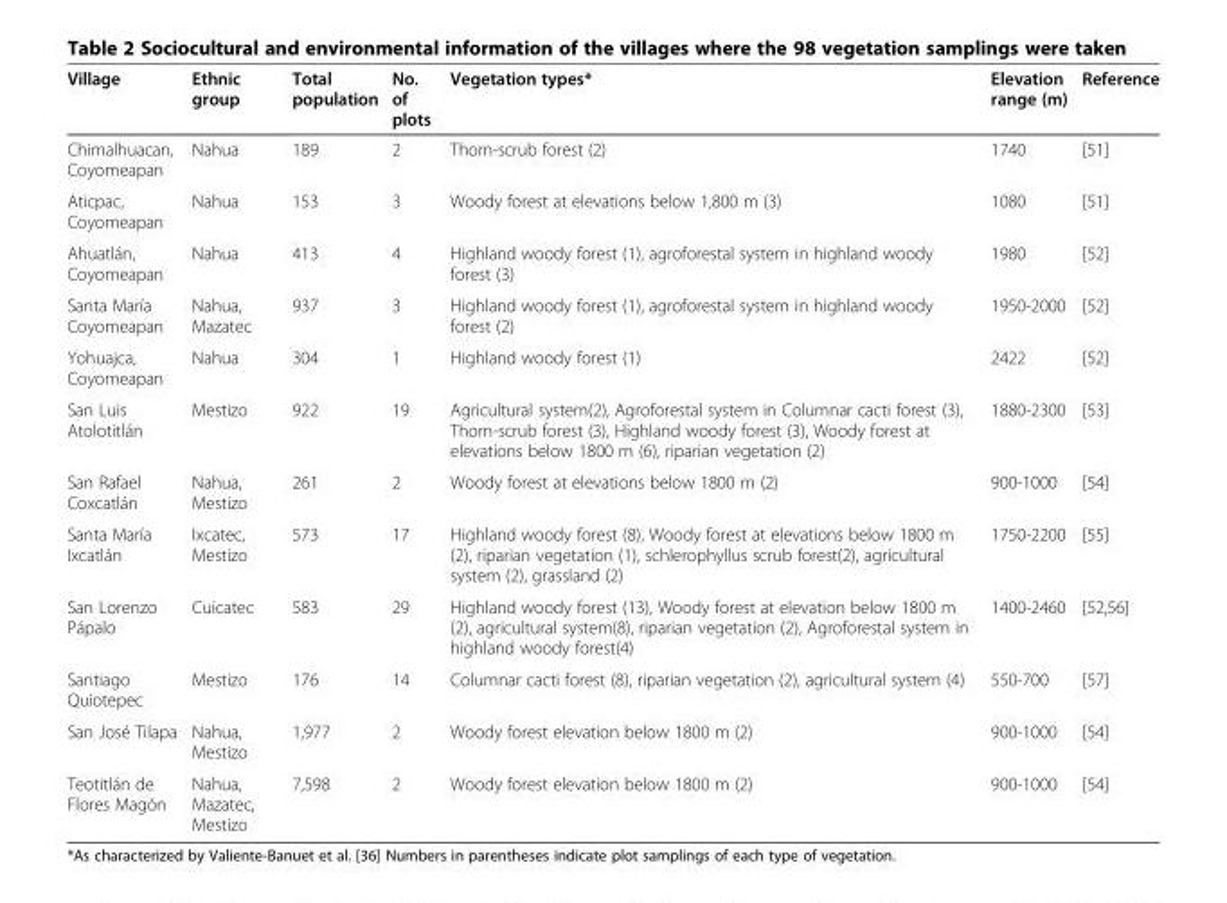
<table><thead><tr><td>Village</td><td>Ethnic group</td><td>Total population</td><td>No. of plots</td><td>Vegetation types*</td><td>Elevation range (m)</td><td>Reference</td></tr></thead><tbody><tr><td>Chimalhuacan, Coyomeapan</td><td>Nahua</td><td>189</td><td>2</td><td>Thorn-scrub forest (2)</td><td>1740</td><td>[51]</td></tr><tr><td>Aticpac, Coyomeapan</td><td>Nahua</td><td>153</td><td>3</td><td>Woody forest at elevations below 1,800 m (3)</td><td>1080</td><td>[51]</td></tr><tr><td>Ahuatlán, Coyomeapan</td><td>Nahua</td><td>413</td><td>4</td><td>Highland woody forest (1), agroforestal system in highland woody forest (3)</td><td>1980</td><td>[52]</td></tr><tr><td>Santa María Coyomeapan</td><td>Nahua, Mazatec</td><td>937</td><td>3</td><td>Highland woody forest (1), agroforestal system in highland woody forest (2)</td><td>1950-2000</td><td>[52]</td></tr><tr><td>Yohuajca, Coyomeapan</td><td>Nahua</td><td>304</td><td>1</td><td>Highland woody forest (1)</td><td>2422</td><td>[52]</td></tr><tr><td>San Luis Atolotitlán</td><td>Mestizo</td><td>922</td><td>19</td><td>Agricultural system(2), Agroforestal system in Columnar cacti forest (3), Thorn-scrub forest (3), Highland woody forest (3), Woody forest at elevations below 1800 m (6), riparian vegetation (2)</td><td>1880-2300</td><td>[53]</td></tr><tr><td>San Rafael Coxcatlán</td><td>Nahua, Mestizo</td><td>261</td><td>2</td><td>Woody forest at elevations below 1800 m (2)</td><td>900-1000</td><td>[54]</td></tr><tr><td>Santa María Ixcatlán</td><td>Ixcatec, Mestizo</td><td>573</td><td>17</td><td>Highland woody forest (8), Woody forest at elevations below 1800 m (2), riparian vegetation (1), schlerophyllus scrub forest(2), agricultural system (2), grassland (2)</td><td>1750-2200</td><td>[55]</td></tr><tr><td>San Lorenzo Pápalo</td><td>Cuicatec</td><td>583</td><td>29</td><td>Highland woody forest (13), Woody forest at elevation below 1800 m (2), agricultural system(8), riparian vegetation (2), Agroforestal system in highland woody forest(4)</td><td>1400-2460</td><td>[52,56]</td></tr><tr><td>Santiago Quiotepec</td><td>Mestizo</td><td>176</td><td>14</td><td>Columnar cacti forest (8), riparian vegetation (2), agricultural system (4)</td><td>550-700</td><td>[57]</td></tr><tr><td>San José Tilapa</td><td>Nahua, Mestizo</td><td>1,977</td><td>2</td><td>Woody forest elevation below 1800 m (2)</td><td>900-1000</td><td>[54]</td></tr><tr><td>Teotitlán de Flores Magón</td><td>Nahua, Mazatec, Mestizo</td><td>7,598</td><td>2</td><td>Woody forest elevation below 1800 m (2)</td><td>900-1000</td><td>[54]</td></tr></tbody></table>